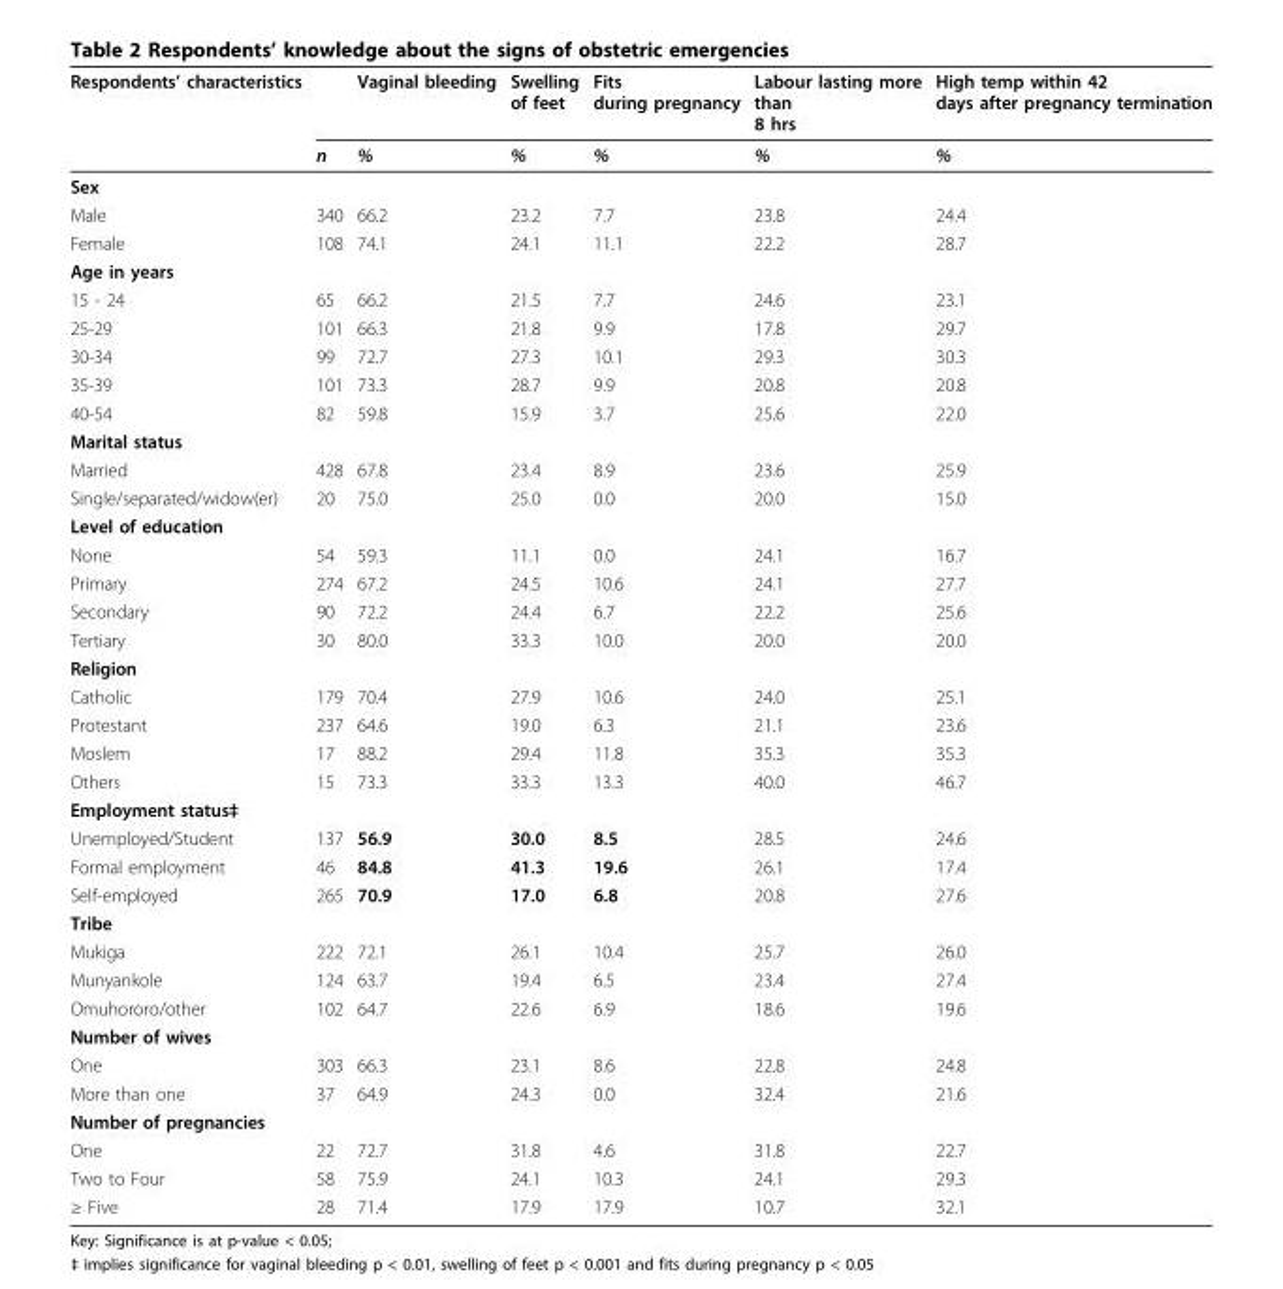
<table><thead><tr><td rowspan="2">Respondents’ characteristics</td><td rowspan="2">n</td><td rowspan="2">Vaginal bleeding %</td><td rowspan="2">Swelling of feet %</td><td rowspan="2">Fits during pregnancy %</td><td rowspan="2">Labour lasting more than 8 hrs %</td><td rowspan="2">High temp within 42 days after pregnancy termination %</td></tr><tr></tr></thead><tbody><tr><td colspan="7">Sex</td></tr><tr><td>Male</td><td>340</td><td>66.2</td><td>23.2</td><td>7.7</td><td>23.8</td><td>24.4</td></tr><tr><td>Female</td><td>108</td><td>74.1</td><td>24.1</td><td>11.1</td><td>22.2</td><td>28.7</td></tr><tr><td colspan="7">Age in years</td></tr><tr><td>15 - 24</td><td>65</td><td>66.2</td><td>21.5</td><td>7.7</td><td>24.6</td><td>23.1</td></tr><tr><td>25-29</td><td>101</td><td>66.3</td><td>21.8</td><td>9.9</td><td>17.8</td><td>29.7</td></tr><tr><td>30-34</td><td>99</td><td>72.7</td><td>27.3</td><td>10.1</td><td>29.3</td><td>30.3</td></tr><tr><td>35-39</td><td>101</td><td>73.3</td><td>28.7</td><td>9.9</td><td>20.8</td><td>20.8</td></tr><tr><td>40-54</td><td>82</td><td>59.8</td><td>15.9</td><td>3.7</td><td>25.6</td><td>22.0</td></tr><tr><td colspan="7">Marital status</td></tr><tr><td>Married</td><td>428</td><td>67.8</td><td>23.4</td><td>8.9</td><td>23.6</td><td>25.9</td></tr><tr><td>Single/separated/widow(er)</td><td>20</td><td>75.0</td><td>25.0</td><td>0.0</td><td>20.0</td><td>15.0</td></tr><tr><td colspan="7">Level of education</td></tr><tr><td>None</td><td>54</td><td>59.3</td><td>11.1</td><td>0.0</td><td>24.1</td><td>16.7</td></tr><tr><td>Primary</td><td>274</td><td>67.2</td><td>24.5</td><td>10.6</td><td>24.1</td><td>27.7</td></tr><tr><td>Secondary</td><td>90</td><td>72.2</td><td>24.4</td><td>6.7</td><td>22.2</td><td>25.6</td></tr><tr><td>Tertiary</td><td>30</td><td>80.0</td><td>33.3</td><td>10.0</td><td>20.0</td><td>20.0</td></tr><tr><td colspan="7">Religion</td></tr><tr><td>Catholic</td><td>179</td><td>70.4</td><td>27.9</td><td>10.6</td><td>24.0</td><td>25.1</td></tr><tr><td>Protestant</td><td>237</td><td>64.6</td><td>19.0</td><td>6.3</td><td>21.1</td><td>23.6</td></tr><tr><td>Moslem</td><td>17</td><td>88.2</td><td>29.4</td><td>11.8</td><td>35.3</td><td>35.3</td></tr><tr><td>Others</td><td>15</td><td>73.3</td><td>33.3</td><td>13.3</td><td>40.0</td><td>46.7</td></tr><tr><td colspan="7">Employment status‡</td></tr><tr><td>Unemployed/Student</td><td>137</td><td>56.9</td><td>30.0</td><td>8.5</td><td>28.5</td><td>24.6</td></tr><tr><td>Formal employment</td><td>46</td><td>84.8</td><td>41.3</td><td>19.6</td><td>26.1</td><td>17.4</td></tr><tr><td>Self-employed</td><td>265</td><td>70.9</td><td>17.0</td><td>6.8</td><td>20.8</td><td>27.6</td></tr><tr><td colspan="7">Tribe</td></tr><tr><td>Mukiga</td><td>222</td><td>72.1</td><td>26.1</td><td>10.4</td><td>25.7</td><td>26.0</td></tr><tr><td>Munyankole</td><td>124</td><td>63.7</td><td>19.4</td><td>6.5</td><td>23.4</td><td>27.4</td></tr><tr><td>Omuhororo/other</td><td>102</td><td>64.7</td><td>22.6</td><td>6.9</td><td>18.6</td><td>19.6</td></tr><tr><td colspan="7">Number of wives</td></tr><tr><td>One</td><td>303</td><td>66.3</td><td>23.1</td><td>8.6</td><td>22.8</td><td>24.8</td></tr><tr><td>More than one</td><td>37</td><td>64.9</td><td>24.3</td><td>0.0</td><td>32.4</td><td>21.6</td></tr><tr><td colspan="7">Number of pregnancies</td></tr><tr><td>One</td><td>22</td><td>72.7</td><td>31.8</td><td>4.6</td><td>31.8</td><td>22.7</td></tr><tr><td>Two to Four</td><td>58</td><td>75.9</td><td>24.1</td><td>10.3</td><td>24.1</td><td>29.3</td></tr><tr><td>≥ Five</td><td>28</td><td>71.4</td><td>17.9</td><td>17.9</td><td>10.7</td><td>32.1</td></tr></tbody></table>